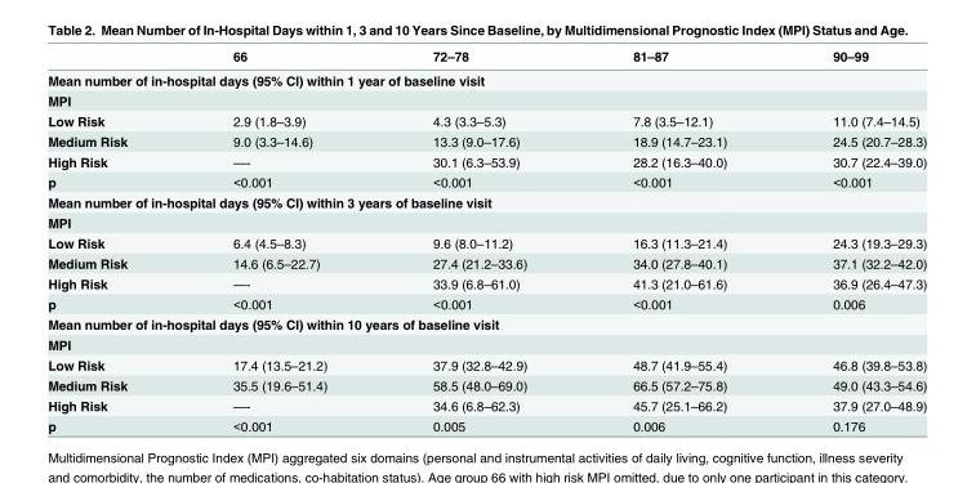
<table><thead><tr><td></td><td>66</td><td>72–78</td><td>81–87</td><td>90–99</td></tr></thead><tbody><tr><td colspan="5">Mean number of in-hospital days (95% CI) within 1 year of baseline visit</td></tr><tr><td colspan="5">MPI</td></tr><tr><td>Low Risk</td><td>2.9 (1.8–3.9)</td><td>4.3 (3.3–5.3)</td><td>7.8 (3.5–12.1)</td><td>11.0 (7.4–14.5)</td></tr><tr><td>Medium Risk</td><td>9.0 (3.3–14.6)</td><td>13.3 (9.0–17.6)</td><td>18.9 (14.7–23.1)</td><td>24.5 (20.7–28.3)</td></tr><tr><td>High Risk</td><td>—-</td><td>30.1 (6.3–53.9)</td><td>28.2 (16.3–40.0)</td><td>30.7 (22.4–39.0)</td></tr><tr><td>p</td><td>&lt;0.001</td><td>&lt;0.001</td><td>&lt;0.001</td><td>&lt;0.001</td></tr><tr><td colspan="5">Mean number of in-hospital days (95% CI) within 3 years of baseline visit</td></tr><tr><td colspan="5">MPI</td></tr><tr><td>Low Risk</td><td>6.4 (4.5–8.3)</td><td>9.6 (8.0–11.2)</td><td>16.3 (11.3–21.4)</td><td>24.3 (19.3–29.3)</td></tr><tr><td>Medium Risk</td><td>14.6 (6.5–22.7)</td><td>27.4 (21.2–33.6)</td><td>34.0 (27.8–40.1)</td><td>37.1 (32.2–42.0)</td></tr><tr><td>High Risk</td><td>—-</td><td>33.9 (6.8–61.0)</td><td>41.3 (21.0–61.6)</td><td>36.9 (26.4–47.3)</td></tr><tr><td>p</td><td>&lt;0.001</td><td>&lt;0.001</td><td>&lt;0.001</td><td>0.006</td></tr><tr><td colspan="5">Mean number of in-hospital days (95% CI) within 10 years of baseline visit</td></tr><tr><td colspan="5">MPI</td></tr><tr><td>Low Risk</td><td>17.4 (13.5–21.2)</td><td>37.9 (32.8–42.9)</td><td>48.7 (41.9–55.4)</td><td>46.8 (39.8–53.8)</td></tr><tr><td>Medium Risk</td><td>35.5 (19.6–51.4)</td><td>58.5 (48.0–69.0)</td><td>66.5 (57.2–75.8)</td><td>49.0 (43.3–54.6)</td></tr><tr><td>High Risk</td><td>—-</td><td>34.6 (6.8–62.3)</td><td>45.7 (25.1–66.2)</td><td>37.9 (27.0–48.9)</td></tr><tr><td>p</td><td>&lt;0.001</td><td>0.005</td><td>0.006</td><td>0.176</td></tr></tbody></table>